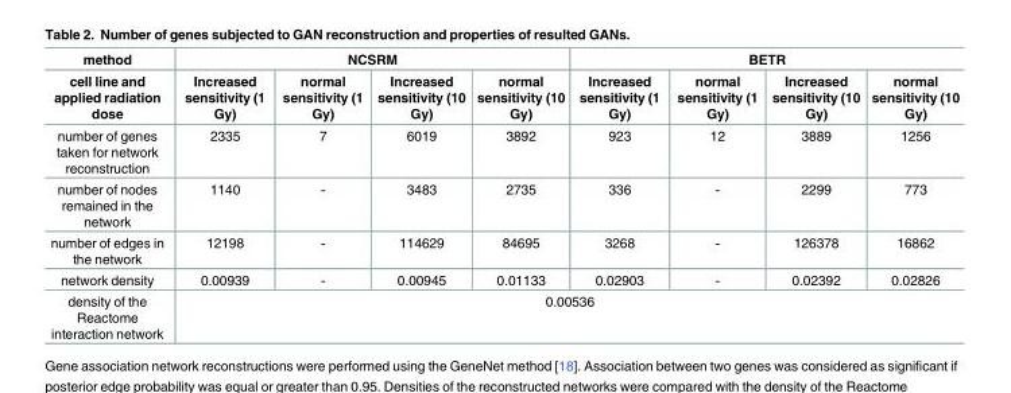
<table><thead><tr><td rowspan="2">method cell line and applied radiation dose</td><td colspan="4">NCSRM</td><td colspan="4">BETR</td></tr><tr><td>Increased sensitivity (1 Gy)</td><td>normal sensitivity (1 Gy)</td><td>Increased sensitivity (10 Gy)</td><td>normal sensitivity (10 Gy)</td><td>Increased sensitivity (1 Gy)</td><td>normal sensitivity (1 Gy)</td><td>Increased sensitivity (10 Gy)</td><td>normal sensitivity (10 Gy)</td></tr></thead><tbody><tr><td>number of genes taken for network reconstruction</td><td>2335</td><td>7</td><td>6019</td><td>3892</td><td>923</td><td>12</td><td>3889</td><td>1256</td></tr><tr><td>number of nodes remained in the network</td><td>1140</td><td>-</td><td>3483</td><td>2735</td><td>336</td><td>-</td><td>2299</td><td>773</td></tr><tr><td>number of edges in the network</td><td>12198</td><td>-</td><td>114629</td><td>84695</td><td>3268</td><td>-</td><td>126378</td><td>16862</td></tr><tr><td>network density</td><td>0.00939</td><td>-</td><td>0.00945</td><td>0.01133</td><td>0.02903</td><td>-</td><td>0.02392</td><td>0.02826</td></tr><tr><td>density of the Reactome interaction network</td><td colspan="8">0.00536</td></tr></tbody></table>